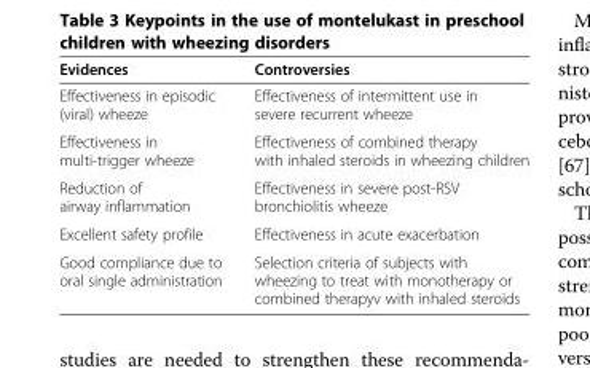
<table><thead><tr><td>Evidences</td><td>Controversies</td></tr></thead><tbody><tr><td>Effectiveness in episodic (viral) wheeze</td><td>Effectiveness of intermittent use in severe recurrent wheeze</td></tr><tr><td>Effectiveness in multi-trigger wheeze</td><td>Effectiveness of combined therapy with inhaled steroids in wheezing children</td></tr><tr><td>Reduction of airway inflammation</td><td>Effectiveness in severe post-RSV bronchiolitis wheeze</td></tr><tr><td>Excellent safety profile</td><td>Effectiveness in acute exacerbation</td></tr><tr><td>Good compliance due to oral single administration</td><td>Selection criteria of subjects with wheezing to treat with monotherapy or combined therapyv with inhaled steroids</td></tr></tbody></table>